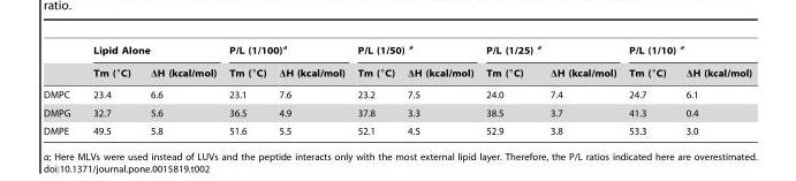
<table><thead><tr><td rowspan="2"></td><td colspan="2">Lipid Alone</td><td colspan="2">P/L (1/100)<sup>a</sup></td><td colspan="2">P/L (1/50) a</td><td colspan="2">P/L (1/25) a</td><td colspan="2">P/L (1/10) a</td></tr><tr><td>Tm (°C)</td><td>ΔH (kcal/mol)</td><td>Tm (°C)</td><td>ΔH (kcal/mol)</td><td>Tm (°C)</td><td>ΔH (kcal/mol)</td><td>Tm (°C)</td><td>ΔH (kcal/mol)</td><td>Tm (°C)</td><td>ΔH (kcal/mol)</td></tr></thead><tbody><tr><td>DMPC</td><td>23.4</td><td>6.6</td><td>23.1</td><td>7.6</td><td>23.2</td><td>7.5</td><td>24.0</td><td>7.4</td><td>24.7</td><td>6.1</td></tr><tr><td>DMPG</td><td>32.7</td><td>5.6</td><td>36.5</td><td>4.9</td><td>37.8</td><td>3.3</td><td>38.5</td><td>3.7</td><td>41.3</td><td>0.4</td></tr><tr><td>DMPE</td><td>49.5</td><td>5.8</td><td>51.6</td><td>5.5</td><td>52.1</td><td>4.5</td><td>52.9</td><td>3.8</td><td>53.3</td><td>3.0</td></tr></tbody></table>